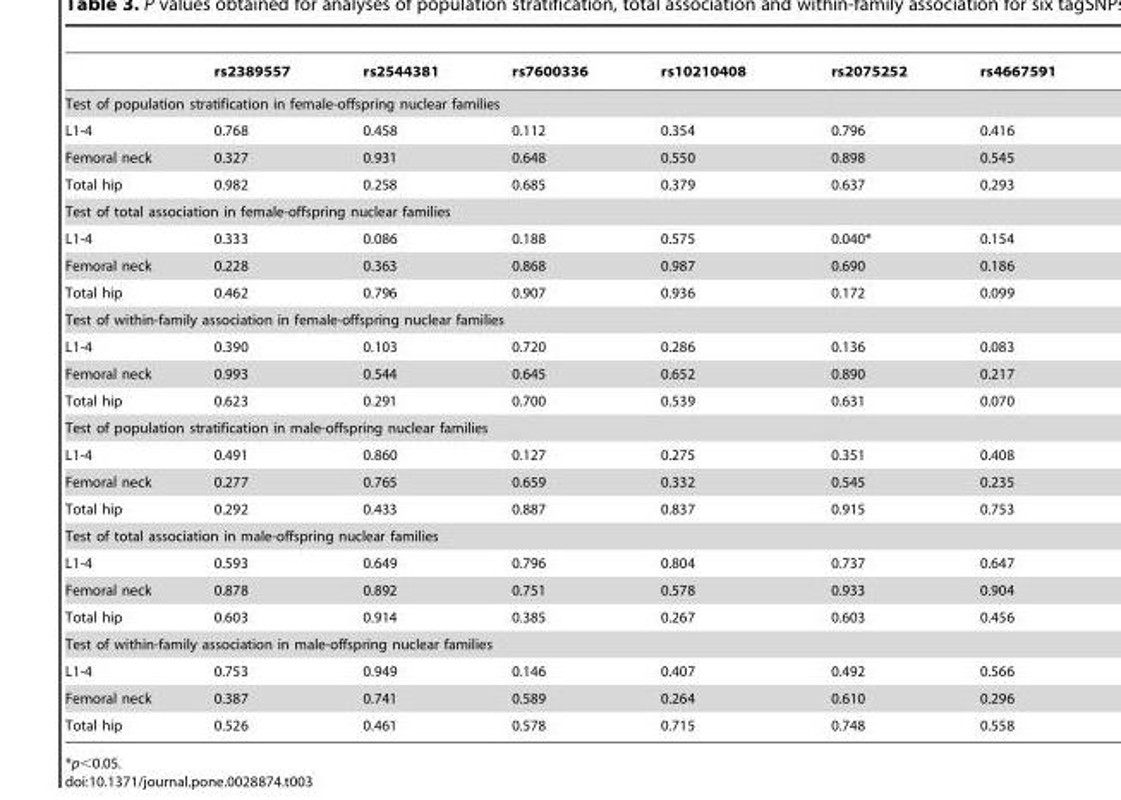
<table><thead><tr><td></td><td>rs2389557</td><td>rs2544381</td><td>rs7600336</td><td>rs10210408</td><td>rs2075252</td><td>rs4667591</td></tr></thead><tbody><tr><td colspan="7">Test of population stratification in female-offspring nuclear families</td></tr><tr><td>L1-4</td><td>0.768</td><td>0.458</td><td>0.112</td><td>0.354</td><td>0.796</td><td>0.416</td></tr><tr><td>Femoral neck</td><td>0.327</td><td>0.931</td><td>0.648</td><td>0.550</td><td>0.898</td><td>0.545</td></tr><tr><td>Total hip</td><td>0.982</td><td>0.258</td><td>0.685</td><td>0.379</td><td>0.637</td><td>0.293</td></tr><tr><td colspan="7">Test of total association in female-offspring nuclear families</td></tr><tr><td>L1-4</td><td>0.333</td><td>0.086</td><td>0.188</td><td>0.575</td><td>0.040*</td><td>0.154</td></tr><tr><td>Femoral neck</td><td>0.228</td><td>0.363</td><td>0.868</td><td>0.987</td><td>0.690</td><td>0.186</td></tr><tr><td>Total hip</td><td>0.462</td><td>0.796</td><td>0.907</td><td>0.936</td><td>0.172</td><td>0.099</td></tr><tr><td colspan="7">Test of within-family association in female-offspring nuclear families</td></tr><tr><td>L1-4</td><td>0.390</td><td>0.103</td><td>0.720</td><td>0.286</td><td>0.136</td><td>0.083</td></tr><tr><td>Femoral neck</td><td>0.993</td><td>0.544</td><td>0.645</td><td>0.652</td><td>0.890</td><td>0.217</td></tr><tr><td>Total hip</td><td>0.623</td><td>0.291</td><td>0.700</td><td>0.539</td><td>0.631</td><td>0.070</td></tr><tr><td colspan="7">Test of population stratification in male-offspring nuclear families</td></tr><tr><td>L1-4</td><td>0.491</td><td>0.860</td><td>0.127</td><td>0.275</td><td>0.351</td><td>0.408</td></tr><tr><td>Femoral neck</td><td>0.277</td><td>0.765</td><td>0.659</td><td>0.332</td><td>0.545</td><td>0.235</td></tr><tr><td>Total hip</td><td>0.292</td><td>0.433</td><td>0.887</td><td>0.837</td><td>0.915</td><td>0.753</td></tr><tr><td colspan="7">Test of total association in male-offspring nuclear families</td></tr><tr><td>L1-4</td><td>0.593</td><td>0.649</td><td>0.796</td><td>0.804</td><td>0.737</td><td>0.647</td></tr><tr><td>Femoral neck</td><td>0.878</td><td>0.892</td><td>0.751</td><td>0.578</td><td>0.933</td><td>0.904</td></tr><tr><td>Total hip</td><td>0.603</td><td>0.914</td><td>0.385</td><td>0.267</td><td>0.603</td><td>0.456</td></tr><tr><td colspan="7">Test of within-family association in male-offspring nuclear families</td></tr><tr><td>L1-4</td><td>0.753</td><td>0.949</td><td>0.146</td><td>0.407</td><td>0.492</td><td>0.566</td></tr><tr><td>Femoral neck</td><td>0.387</td><td>0.741</td><td>0.589</td><td>0.264</td><td>0.610</td><td>0.296</td></tr><tr><td>Total hip</td><td>0.526</td><td>0.461</td><td>0.578</td><td>0.715</td><td>0.748</td><td>0.558</td></tr></tbody></table>